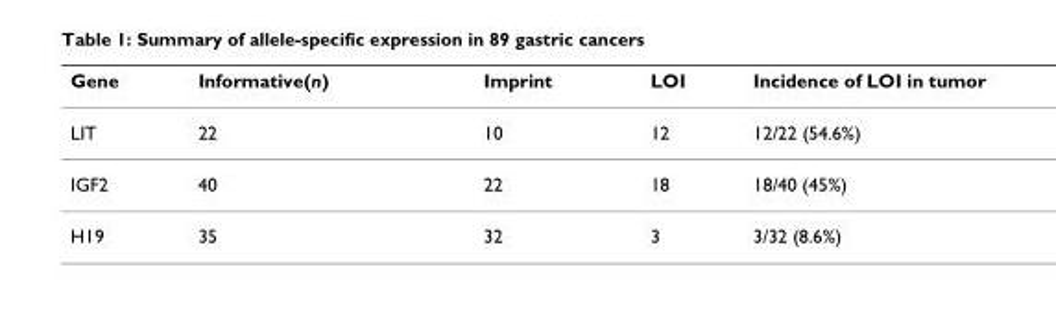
<table><thead><tr><td>Gene</td><td>Informative(n)</td><td>Imprint</td><td>LOI</td><td>Incidence of LOI in tumor</td></tr></thead><tbody><tr><td>LIT</td><td>22</td><td>10</td><td>12</td><td>12/22 (54.6%)</td></tr><tr><td>IGF2</td><td>40</td><td>22</td><td>18</td><td>18/40 (45%)</td></tr><tr><td>H19</td><td>35</td><td>32</td><td>3</td><td>3/32 (8.6%)</td></tr></tbody></table>